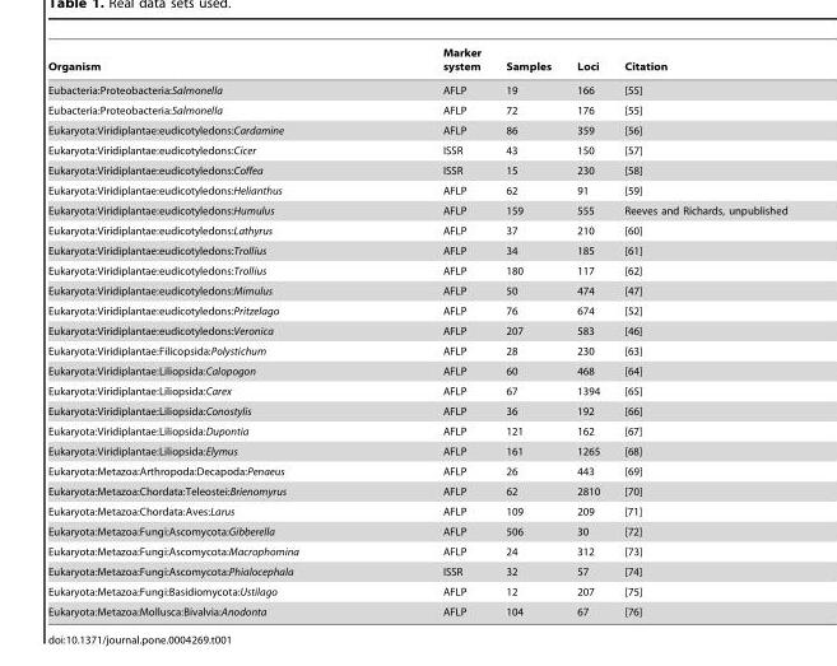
<table><thead><tr><td>Organism</td><td>Marker system</td><td>Samples</td><td>Loci</td><td>Citation</td></tr></thead><tbody><tr><td>Eubacteria:Proteobacteria:Salmonella</td><td>AFLP</td><td>19</td><td>166</td><td>[55]</td></tr><tr><td>Eubacteria:Proteobacteria:Salmonella</td><td>AFLP</td><td>72</td><td>176</td><td>[55]</td></tr><tr><td>Eukaryota:Viridiplantae:eudicotyledons:Cardamine</td><td>AFLP</td><td>86</td><td>359</td><td>[56]</td></tr><tr><td>Eukaryota:Viridiplantae:eudicotyledons:Cicer</td><td>ISSR</td><td>43</td><td>150</td><td>[57]</td></tr><tr><td>Eukaryota:Viridiplantae:eudicotyledons:Coffea</td><td>ISSR</td><td>15</td><td>230</td><td>[58]</td></tr><tr><td>Eukaryota:Viridiplantae:eudicotyledons:Helianthus</td><td>AFLP</td><td>62</td><td>91</td><td>[59]</td></tr><tr><td>Eukaryota:Viridiplantae:eudicotyledons:Humulus</td><td>AFLP</td><td>159</td><td>555</td><td>Reeves and Richards, unpublished</td></tr><tr><td>Eukaryota:Viridiplantae:eudicotyledons:Lathyrus</td><td>AFLP</td><td>37</td><td>210</td><td>[60]</td></tr><tr><td>Eukaryota:Viridiplantae:eudicotyledons:Trollius</td><td>AFLP</td><td>34</td><td>185</td><td>[61]</td></tr><tr><td>Eukaryota:Viridiplantae:eudicotyledons:Trollius</td><td>AFLP</td><td>180</td><td>117</td><td>[62]</td></tr><tr><td>Eukaryota:Viridiplantae:eudicotyledons:Mimulus</td><td>AFLP</td><td>50</td><td>474</td><td>[47]</td></tr><tr><td>Eukaryota:Viridiplantae:eudicotyledons:Pritzelago</td><td>AFLP</td><td>76</td><td>674</td><td>[52]</td></tr><tr><td>Eukaryota:Viridiplantae:eudicotyledons:Veronica</td><td>AFLP</td><td>207</td><td>583</td><td>[46]</td></tr><tr><td>Eukaryota:Viridiplantae:Filicopsida:Polystichum</td><td>AFLP</td><td>28</td><td>230</td><td>[63]</td></tr><tr><td>Eukaryota:Viridiplantae:Liliopsida:Calopogon</td><td>AFLP</td><td>60</td><td>468</td><td>[64]</td></tr><tr><td>Eukaryota:Viridiplantae:Liliopsida:Carex</td><td>AFLP</td><td>67</td><td>1394</td><td>[65]</td></tr><tr><td>Eukaryota:Viridiplantae:Liliopsida:Conostylis</td><td>AFLP</td><td>36</td><td>192</td><td>[66]</td></tr><tr><td>Eukaryota:Viridiplantae:Liliopsida:Dupontia</td><td>AFLP</td><td>121</td><td>162</td><td>[67]</td></tr><tr><td>Eukaryota:Viridiplantae:Liliopsida:Elymus</td><td>AFLP</td><td>161</td><td>1265</td><td>[68]</td></tr><tr><td>Eukaryota:Metazoa:Arthropoda:Decapoda:Penaeus</td><td>AFLP</td><td>26</td><td>443</td><td>[69]</td></tr><tr><td>Eukaryota:Metazoa:Chordata:Teleostei:Brienomyrus</td><td>AFLP</td><td>62</td><td>2810</td><td>[70]</td></tr><tr><td>Eukaryota:Metazoa:Chordata:Aves:Larus</td><td>AFLP</td><td>109</td><td>209</td><td>[71]</td></tr><tr><td>Eukaryota:Metazoa:Fungi:Ascomycota:Gibberella</td><td>AFLP</td><td>506</td><td>30</td><td>[72]</td></tr><tr><td>Eukaryota:Metazoa:Fungi:Ascomycota:Macrophomina</td><td>AFLP</td><td>24</td><td>312</td><td>[73]</td></tr><tr><td>Eukaryota:Metazoa:Fungi:Ascomycota:Phialocephala</td><td>ISSR</td><td>32</td><td>57</td><td>[74]</td></tr><tr><td>Eukaryota:Metazoa:Fungi:Basidiomycota:Ustilago</td><td>AFLP</td><td>12</td><td>207</td><td>[75]</td></tr><tr><td>Eukaryota:Metazoa:Mollusca:Bivalvia:Anodonta</td><td>AFLP</td><td>104</td><td>67</td><td>[76]</td></tr></tbody></table>